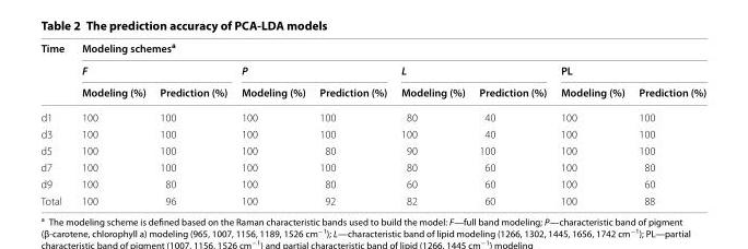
<table><thead><tr><td rowspan="3">Time</td><td colspan="8">Modeling schemes<sup>a</sup></td></tr><tr><td colspan="2">F</td><td colspan="2">P</td><td colspan="2">L</td><td colspan="2">PL</td></tr><tr><td>Modeling (%)</td><td>Prediction (%)</td><td>Modeling (%)</td><td>Prediction (%)</td><td>Modeling (%)</td><td>Prediction (%)</td><td>Modeling (%)</td><td>Prediction (%)</td></tr></thead><tbody><tr><td>d1</td><td>100</td><td>100</td><td>100</td><td>100</td><td>80</td><td>40</td><td>100</td><td>100</td></tr><tr><td>d3</td><td>100</td><td>100</td><td>100</td><td>100</td><td>100</td><td>40</td><td>100</td><td>100</td></tr><tr><td>d5</td><td>100</td><td>100</td><td>100</td><td>80</td><td>90</td><td>100</td><td>100</td><td>100</td></tr><tr><td>d7</td><td>100</td><td>100</td><td>100</td><td>100</td><td>80</td><td>60</td><td>100</td><td>80</td></tr><tr><td>d9</td><td>100</td><td>80</td><td>100</td><td>80</td><td>60</td><td>60</td><td>100</td><td>60</td></tr><tr><td>Total</td><td>100</td><td>96</td><td>100</td><td>92</td><td>82</td><td>60</td><td>100</td><td>88</td></tr></tbody></table>